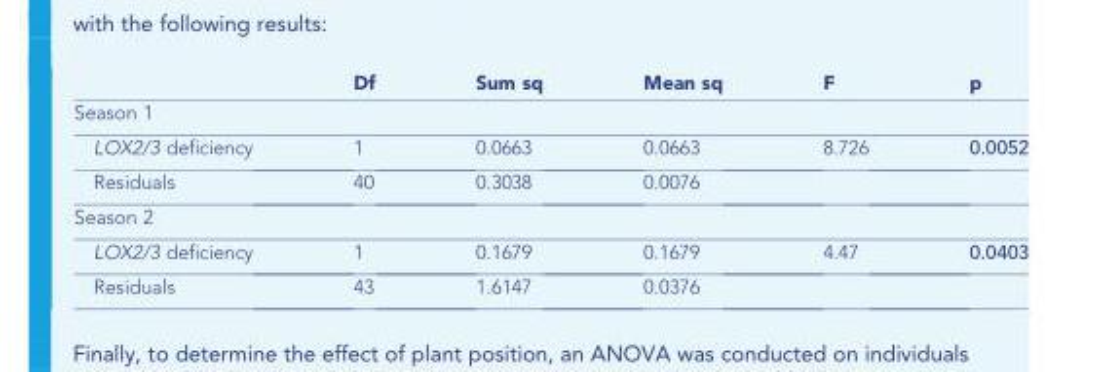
<table><thead><tr><td></td><td>Df</td><td>Sum sq</td><td>Mean sq</td><td>F</td><td>p</td></tr></thead><tbody><tr><td colspan="6">Season 1</td></tr><tr><td>LOX2/3 deficiency</td><td>1</td><td>0.0663</td><td>0.0663</td><td>8.726</td><td>0.0052</td></tr><tr><td>Residuals</td><td>40</td><td>0.3038</td><td>0.0076</td><td></td><td></td></tr><tr><td colspan="6">Season 2</td></tr><tr><td>LOX2/3 deficiency</td><td>1</td><td>0.1679</td><td>0.1679</td><td>4.47</td><td>0.0403</td></tr><tr><td>Residuals</td><td>43</td><td>1.6147</td><td>0.0376</td><td></td><td></td></tr></tbody></table>